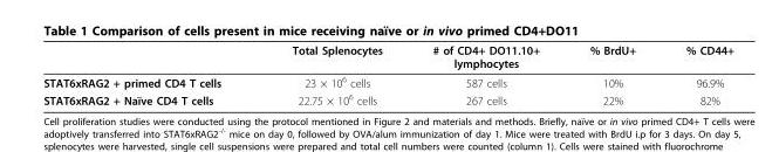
<table><thead><tr><td></td><td>Total Splenocytes</td><td># of CD4+ DO11.10+ lymphocytes</td><td>% BrdU+</td><td>% CD44+</td></tr></thead><tbody><tr><td>STAT6xRAG2 + primed CD4 T cells</td><td>23 × 10<sup>6</sup> cells</td><td>587 cells</td><td>10%</td><td>96.9%</td></tr><tr><td>STAT6xRAG2 + Naïve CD4 T cells</td><td>22.75 × 10<sup>6</sup> cells</td><td>267 cells</td><td>22%</td><td>82%</td></tr></tbody></table>